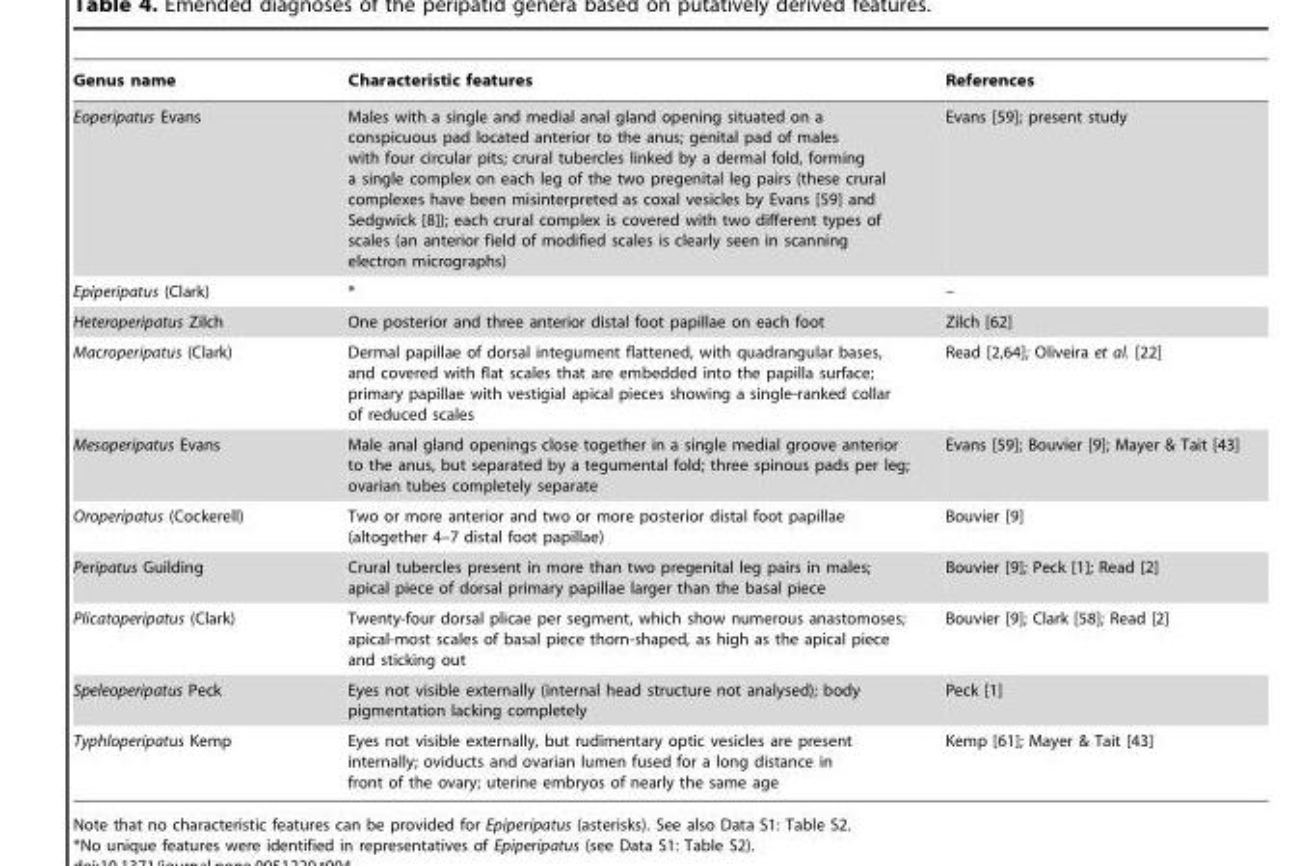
<table><thead><tr><td>Genus name</td><td>Characteristic features</td><td>References</td></tr></thead><tbody><tr><td>Eoperipatus Evans</td><td>Males with a single and medial anal gland opening situated on a conspicuous pad located anterior to the anus; genital pad of males with four circular pits; crural tubercles linked by a dermal fold, forming a single complex on each leg of the two pregenital leg pairs (these crural complexes have been misinterpreted as coxal vesicles by Evans [59] and Sedgwick [8]); each crural complex is covered with two different types of scales (an anterior field of modified scales is clearly seen in scanning electron micrographs)</td><td>Evans [59]; present study</td></tr><tr><td>Epiperipatus (Clark)</td><td>*</td><td>–</td></tr><tr><td>Heteroperipatus Zilch</td><td>One posterior and three anterior distal foot papillae on each foot</td><td>Zilch [62]</td></tr><tr><td>Macroperipatus (Clark)</td><td>Dermal papillae of dorsal integument flattened, with quadrangular bases, and covered with flat scales that are embedded into the papilla surface; primary papillae with vestigial apical pieces showing a single-ranked collar of reduced scales</td><td>Read [2,64]; Oliveira et al. [22]</td></tr><tr><td>Mesoperipatus Evans</td><td>Male anal gland openings close together in a single medial groove anterior to the anus, but separated by a tegumental fold; three spinous pads per leg; ovarian tubes completely separate</td><td>Evans [59]; Bouvier [9]; Mayer &amp; Tait [43]</td></tr><tr><td>Oroperipatus (Cockerell)</td><td>Two or more anterior and two or more posterior distal foot papillae (altogether 4–7 distal foot papillae)</td><td>Bouvier [9]</td></tr><tr><td>Peripatus Guilding</td><td>Crural tubercles present in more than two pregenital leg pairs in males; apical piece of dorsal primary papillae larger than the basal piece</td><td>Bouvier [9]; Peck [1]; Read [2]</td></tr><tr><td>Plicatoperipatus (Clark)</td><td>Twenty-four dorsal plicae per segment, which show numerous anastomoses; apical-most scales of basal piece thorn-shaped, as high as the apical piece and sticking out</td><td>Bouvier [9]; Clark [58]; Read [2]</td></tr><tr><td>Speleoperipatus Peck</td><td>Eyes not visible externally (internal head structure not analysed); body pigmentation lacking completely</td><td>Peck [1]</td></tr><tr><td>Typhloperipatus Kemp</td><td>Eyes not visible externally, but rudimentary optic vesicles are present internally; oviducts and ovarian lumen fused for a long distance in front of the ovary; uterine embryos of nearly the same age</td><td>Kemp [61]; Mayer &amp; Tait [43]</td></tr></tbody></table>